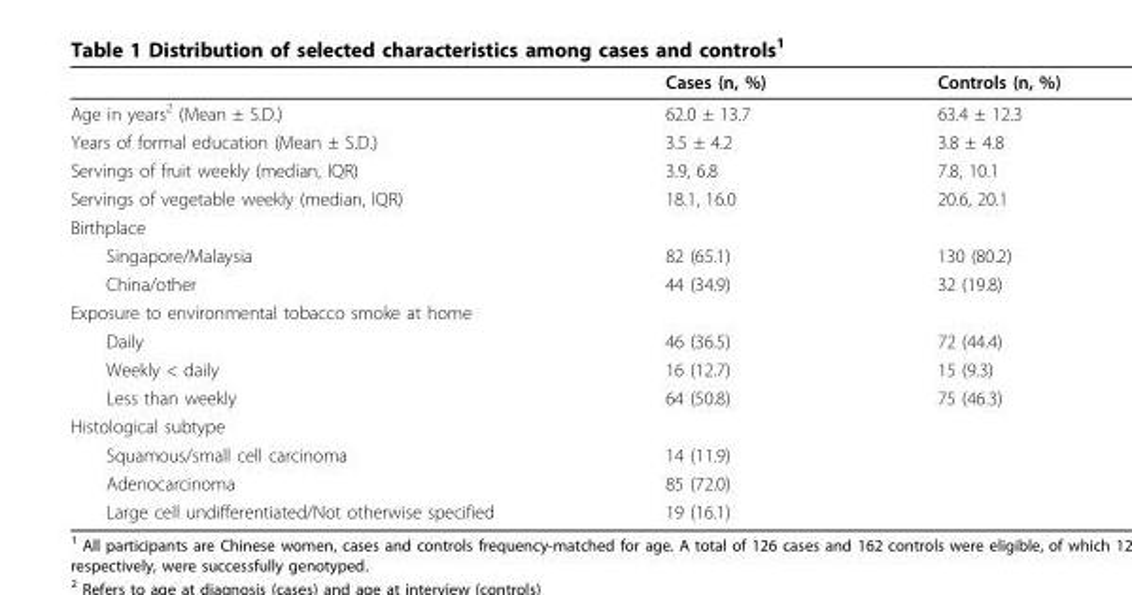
<table><thead><tr><td></td><td>Cases (n, %)</td><td>Controls (n, %)</td></tr></thead><tbody><tr><td>Age in years<sup>2</sup> (Mean ± S.D.)</td><td>62.0 ± 13.7</td><td>63.4 ± 12.3</td></tr><tr><td>Years of formal education (Mean ± S.D.)</td><td>3.5 ± 4.2</td><td>3.8 ± 4.8</td></tr><tr><td>Servings of fruit weekly (median, IQR)</td><td>3.9, 6.8</td><td>7.8, 10.1</td></tr><tr><td>Servings of vegetable weekly (median, IQR)</td><td>18.1, 16.0</td><td>20.6, 20.1</td></tr><tr><td colspan="3">Birthplace</td></tr><tr><td>Singapore/Malaysia</td><td>82 (65.1)</td><td>130 (80.2)</td></tr><tr><td>China/other</td><td>44 (34.9)</td><td>32 (19.8)</td></tr><tr><td colspan="3">Exposure to environmental tobacco smoke at home</td></tr><tr><td>Daily</td><td>46 (36.5)</td><td>72 (44.4)</td></tr><tr><td>Weekly &lt; daily</td><td>16 (12.7)</td><td>15 (9.3)</td></tr><tr><td>Less than weekly</td><td>64 (50.8)</td><td>75 (46.3)</td></tr><tr><td colspan="3">Histological subtype</td></tr><tr><td>Squamous/small cell carcinoma</td><td>14 (11.9)</td><td></td></tr><tr><td>Adenocarcinoma</td><td>85 (72.0)</td><td></td></tr><tr><td>Large cell undifferentiated/Not otherwise specified</td><td>19 (16.1)</td><td></td></tr></tbody></table>